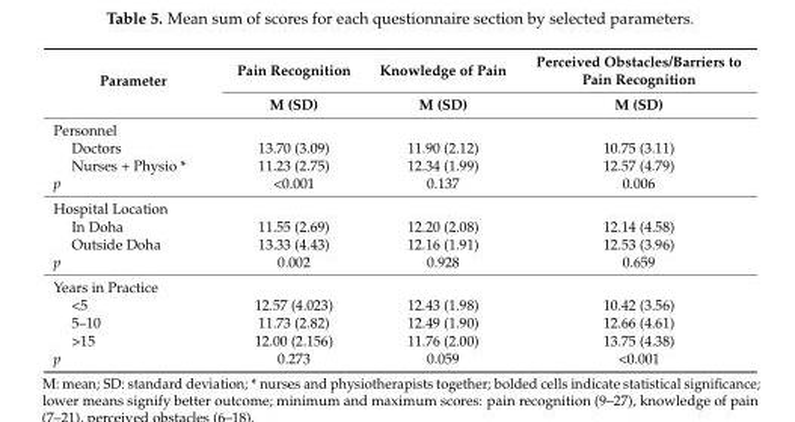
<table><thead><tr><td rowspan="2">Parameter</td><td rowspan="2">Pain Recognition M (SD)</td><td rowspan="2">Knowledge of Pain M (SD)</td><td rowspan="2">Perceived Obstacles/Barriers to Pain Recognition M (SD)</td></tr><tr></tr></thead><tbody><tr><td colspan="4">Personnel</td></tr><tr><td>Doctors</td><td>13.70 (3.09)</td><td>11.90 (2.12)</td><td>10.75 (3.11)</td></tr><tr><td>Nurses + Physio *</td><td>11.23 (2.75)</td><td>12.34 (1.99)</td><td>12.57 (4.79)</td></tr><tr><td>p</td><td>&lt;0.001</td><td>0.137</td><td>0.006</td></tr><tr><td colspan="4">Hospital Location</td></tr><tr><td>In Doha</td><td>11.55 (2.69)</td><td>12.20 (2.08)</td><td>12.14 (4.58)</td></tr><tr><td>Outside Doha</td><td>13.33 (4.43)</td><td>12.16 (1.91)</td><td>12.53 (3.96)</td></tr><tr><td>p</td><td>0.002</td><td>0.928</td><td>0.659</td></tr><tr><td colspan="4">Years in Practice</td></tr><tr><td>&lt;5</td><td>12.57 (4.023)</td><td>12.43 (1.98)</td><td>10.42 (3.56)</td></tr><tr><td>5–10</td><td>11.73 (2.82)</td><td>12.49 (1.90)</td><td>12.66 (4.61)</td></tr><tr><td>&gt;15</td><td>12.00 (2.156)</td><td>11.76 (2.00)</td><td>13.75 (4.38)</td></tr><tr><td>p</td><td>0.273</td><td>0.059</td><td>&lt;0.001</td></tr></tbody></table>